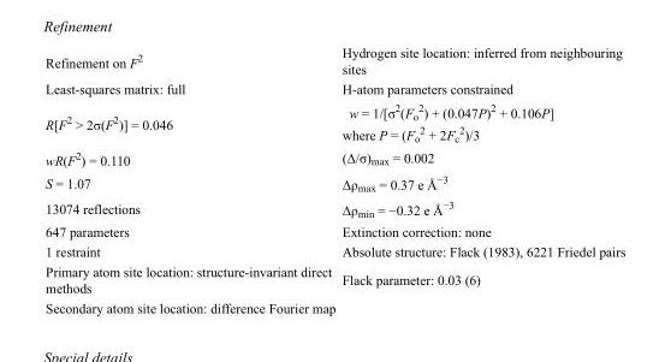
<table><tbody><tr><td>Refinement on F<sup>2</sup></td><td>Hydrogen site location: inferred from neighbouring sites</td></tr><tr><td>Least-squares matrix: full</td><td>H-atom parameters constrained</td></tr><tr><td>R[F<sup>2</sup> &gt; 2σ(F<sup>2</sup>)] = 0.046</td><td>w = 1/[σ<sup>2</sup>(F<sub>o</sub> <sup>2</sup>) + (0.047P)<sup>2</sup> + 0.106P] where P = (F<sub>o</sub> <sup>2</sup> + 2F<sub>c</sub> <sup>2</sup>)/3</td></tr><tr><td>wR(F<sup>2</sup>) = 0.110</td><td>(Δ/σ)<sub>max</sub> = 0.002</td></tr><tr><td>S = 1.07</td><td>Δρ<sub>max</sub> = 0.37 e Å<sup>−3</sup></td></tr><tr><td>13074 reflections</td><td>Δρ<sub>min</sub> = −0.32 e Å<sup>−3</sup></td></tr><tr><td>647 parameters</td><td>Extinction correction: none</td></tr><tr><td>1 restraint</td><td>Absolute structure: Flack (1983), 6221 Friedel pairs</td></tr><tr><td>Primary atom site location: structure-invariant direct methods</td><td>Flack parameter: 0.03 (6)</td></tr><tr><td>Secondary atom site location: difference Fourier map</td><td></td></tr></tbody></table>